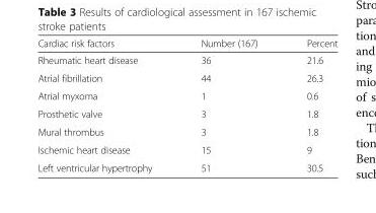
<table><thead><tr><td>Cardiac risk factors</td><td>Number (167)</td><td>Percent</td></tr></thead><tbody><tr><td>Rheumatic heart disease</td><td>36</td><td>21.6</td></tr><tr><td>Atrial fibrillation</td><td>44</td><td>26.3</td></tr><tr><td>Atrial myxoma</td><td>1</td><td>0.6</td></tr><tr><td>Prosthetic valve</td><td>3</td><td>1.8</td></tr><tr><td>Mural thrombus</td><td>3</td><td>1.8</td></tr><tr><td>Ischemic heart disease</td><td>15</td><td>9</td></tr><tr><td>Left ventricular hypertrophy</td><td>51</td><td>30.5</td></tr></tbody></table>